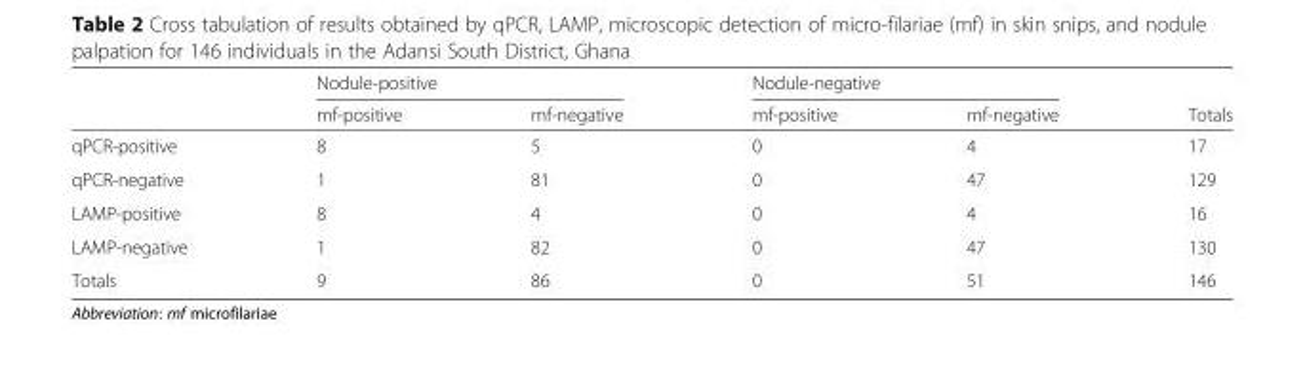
<table><thead><tr><td rowspan="2"></td><td colspan="2">Nodule-positive</td><td colspan="2">Nodule-negative</td><td rowspan="2">Totals</td></tr><tr><td>mf-positive</td><td>mf-negative</td><td>mf-positive</td><td>mf-negative</td></tr></thead><tbody><tr><td>qPCR-positive</td><td>8</td><td>5</td><td>0</td><td>4</td><td>17</td></tr><tr><td>qPCR-negative</td><td>1</td><td>81</td><td>0</td><td>47</td><td>129</td></tr><tr><td>LAMP-positive</td><td>8</td><td>4</td><td>0</td><td>4</td><td>16</td></tr><tr><td>LAMP-negative</td><td>1</td><td>82</td><td>0</td><td>47</td><td>130</td></tr><tr><td>Totals</td><td>9</td><td>86</td><td>0</td><td>51</td><td>146</td></tr></tbody></table>